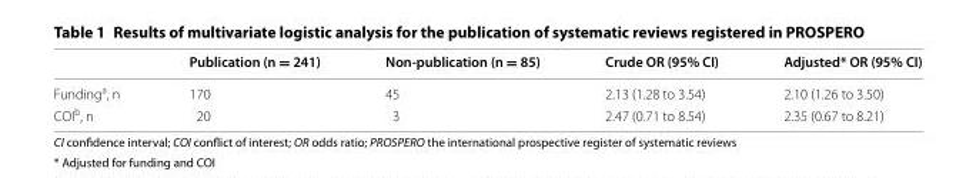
<table><thead><tr><td></td><td>Publication (n = 241)</td><td>Non-publication (n = 85)</td><td>Crude OR (95% CI)</td><td>Adjusted* OR (95% CI)</td></tr></thead><tbody><tr><td>Funding<sup>a</sup>, n</td><td>170</td><td>45</td><td>2.13 (1.28 to 3.54)</td><td>2.10 (1.26 to 3.50)</td></tr><tr><td>COI<sup>b</sup>, n</td><td>20</td><td>3</td><td>2.47 (0.71 to 8.54)</td><td>2.35 (0.67 to 8.21)</td></tr></tbody></table>